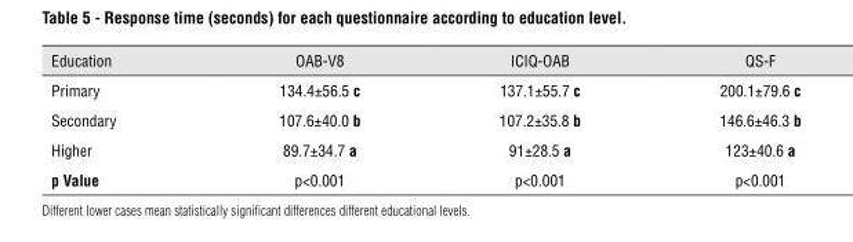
<table><thead><tr><td>Education</td><td>OAB-V8</td><td>ICIQ-OAB</td><td>QS-F</td></tr></thead><tbody><tr><td>Primary</td><td>134.4±56.5 c</td><td>137.1±55.7 c</td><td>200.1±79.6 c</td></tr><tr><td>Secondary</td><td>107.6±40.0 b</td><td>107.2±35.8 b</td><td>146.6±46.3 b</td></tr><tr><td>Higher</td><td>89.7±34.7 a</td><td>91±28.5 a</td><td>123±40.6 a</td></tr><tr><td>p value</td><td>p&lt;0.001</td><td>p&lt;0.001</td><td>p&lt;0.001</td></tr></tbody></table>